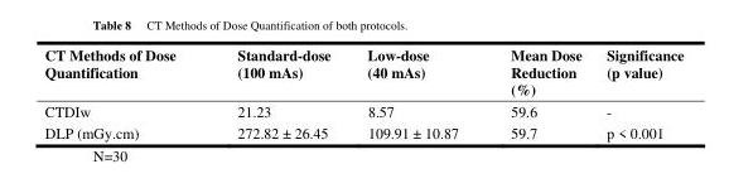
<table><thead><tr><td>CT Methods of Dose Quantification</td><td>Standard-dose (100 mAs)</td><td>Low-dose (40 mAs)</td><td>Mean Dose Reduction (%)</td><td>Significance (p value)</td></tr></thead><tbody><tr><td>CTDIw</td><td>21.23</td><td>8.57</td><td>59.6</td><td>-</td></tr><tr><td>DLP (mGy.cm)</td><td>272.82 ± 26.45</td><td>109.91 ± 10.87</td><td>59.7</td><td>p &lt; 0.001</td></tr></tbody></table>